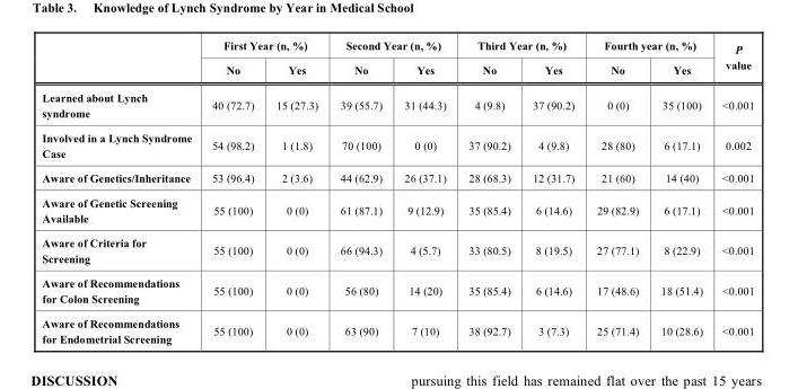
<table><thead><tr><td rowspan="2"></td><td colspan="2">First Year (n, %)</td><td colspan="2">Second Year (n, %)</td><td colspan="2">Third Year (n, %)</td><td colspan="2">Fourth year (n, %)</td><td rowspan="2">P value</td></tr><tr><td>No</td><td>Yes</td><td>No</td><td>Yes</td><td>No</td><td>Yes</td><td>No</td><td>Yes</td></tr></thead><tbody><tr><td>Learned about Lynch syndrome</td><td>40 (72.7)</td><td>15 (27.3)</td><td>39 (55.7)</td><td>31 (44.3)</td><td>4 (9.8)</td><td>37 (90.2)</td><td>0 (0)</td><td>35 (100)</td><td>&lt;0.001</td></tr><tr><td>Involved in a Lynch Syndrome Case</td><td>54 (98.2)</td><td>1 (1.8)</td><td>70 (100)</td><td>0 (0)</td><td>37 (90.2)</td><td>4 (9.8)</td><td>28 (80)</td><td>6 (17.1)</td><td>0.002</td></tr><tr><td>Aware of Genetics/Inheritance</td><td>53 (96.4)</td><td>2 (3.6)</td><td>44 (62.9)</td><td>26 (37.1)</td><td>28 (68.3)</td><td>12 (31.7)</td><td>21 (60)</td><td>14 (40)</td><td>&lt;0.001</td></tr><tr><td>Aware of Genetic Screening Available</td><td>55 (100)</td><td>0 (0)</td><td>61 (87.1)</td><td>9 (12.9)</td><td>35 (85.4)</td><td>6 (14.6)</td><td>29 (82.9)</td><td>6 (17.1)</td><td>&lt;0.001</td></tr><tr><td>Aware of Criteria for Screening</td><td>55 (100)</td><td>0 (0)</td><td>66 (94.3)</td><td>4 (5.7)</td><td>33 (80.5)</td><td>8 (19.5)</td><td>27 (77.1)</td><td>8 (22.9)</td><td>&lt;0.001</td></tr><tr><td>Aware of Recommendations for Colon Screening</td><td>55 (100)</td><td>0 (0)</td><td>56 (80)</td><td>14 (20)</td><td>35 (85.4)</td><td>6 (14.6)</td><td>17 (48.6)</td><td>18 (51.4)</td><td>&lt;0.001</td></tr><tr><td>Aware of Recommendations for Endometrial Screening</td><td>55 (100)</td><td>0 (0)</td><td>63 (90)</td><td>7 (10)</td><td>38 (92.7)</td><td>3 (7.3)</td><td>25 (71.4)</td><td>10 (28.6)</td><td>&lt;0.001</td></tr></tbody></table>